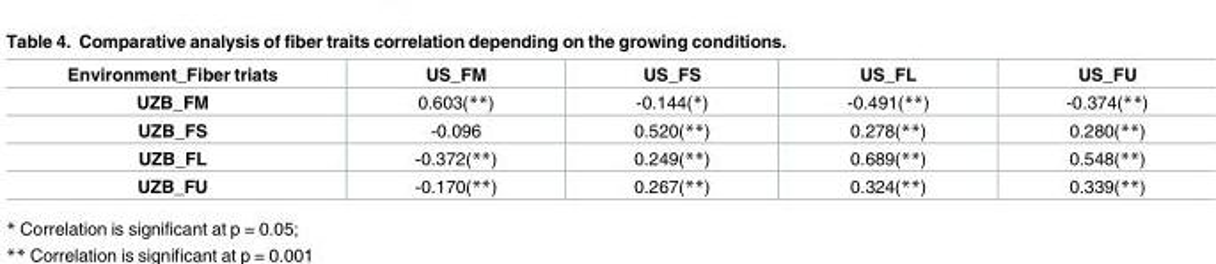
<table><tbody><tr><td>Environment_Fiber triats</td><td>US_FM</td><td>US_FS</td><td>US_FL</td><td>US_FU</td></tr><tr><td>UZB_FM</td><td>0.603(**)</td><td>-0.144(*)</td><td>-0.491(**)</td><td>-0.374(**)</td></tr><tr><td>UZB_FS</td><td>-0.096</td><td>0.520(**)</td><td>0.278(**)</td><td>0.280(**)</td></tr><tr><td>UZB_FL</td><td>-0.372(**)</td><td>0.249(**)</td><td>0.689(**)</td><td>0.548(**)</td></tr><tr><td>UZB_FU</td><td>-0.170(**)</td><td>0.267(**)</td><td>0.324(**)</td><td>0.339(**)</td></tr></tbody></table>